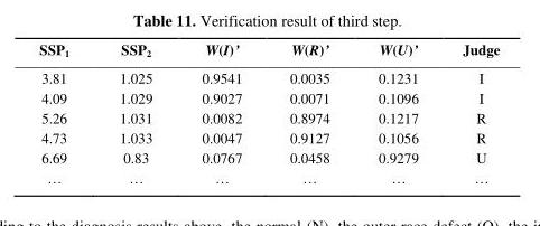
<table><thead><tr><td>SSP<sub>1</sub></td><td>SSP<sub>2</sub></td><td>W(I)’</td><td>W(R)’</td><td>W(U)’</td><td>Judge</td></tr></thead><tbody><tr><td>3.81</td><td>1.025</td><td>0.9541</td><td>0.0035</td><td>0.1231</td><td>I</td></tr><tr><td>4.09</td><td>1.029</td><td>0.9027</td><td>0.0071</td><td>0.1096</td><td>I</td></tr><tr><td>5.26</td><td>1.031</td><td>0.0082</td><td>0.8974</td><td>0.1217</td><td>R</td></tr><tr><td>4.73</td><td>1.033</td><td>0.0047</td><td>0.9127</td><td>0.1056</td><td>R</td></tr><tr><td>6.69</td><td>0.83</td><td>0.0767</td><td>0.0458</td><td>0.9279</td><td>U</td></tr><tr><td>…</td><td>…</td><td>…</td><td>…</td><td>…</td><td>…</td></tr></tbody></table>